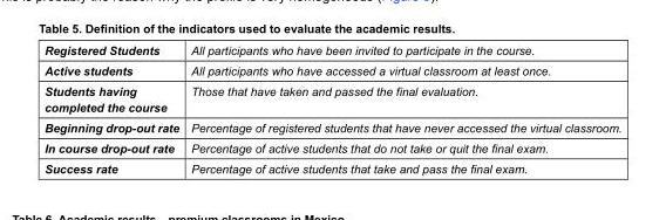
<table><tbody><tr><td>Registered Students</td><td>All participants who have been invited to participate in the course.</td></tr><tr><td>Active students</td><td>All participants who have accessed a virtual classroom at least once.</td></tr><tr><td>Students having completed the course</td><td>Those that have taken and passed the final evaluation.</td></tr><tr><td>Beginning drop-out rate</td><td>Percentage of registered students that have never accessed the virtual classroom.</td></tr><tr><td>In course drop-out rate</td><td>Percentage of active students that do not take or quit the final exam.</td></tr><tr><td>Success rate</td><td>Percentage of active students that take and pass the final exam.</td></tr></tbody></table>